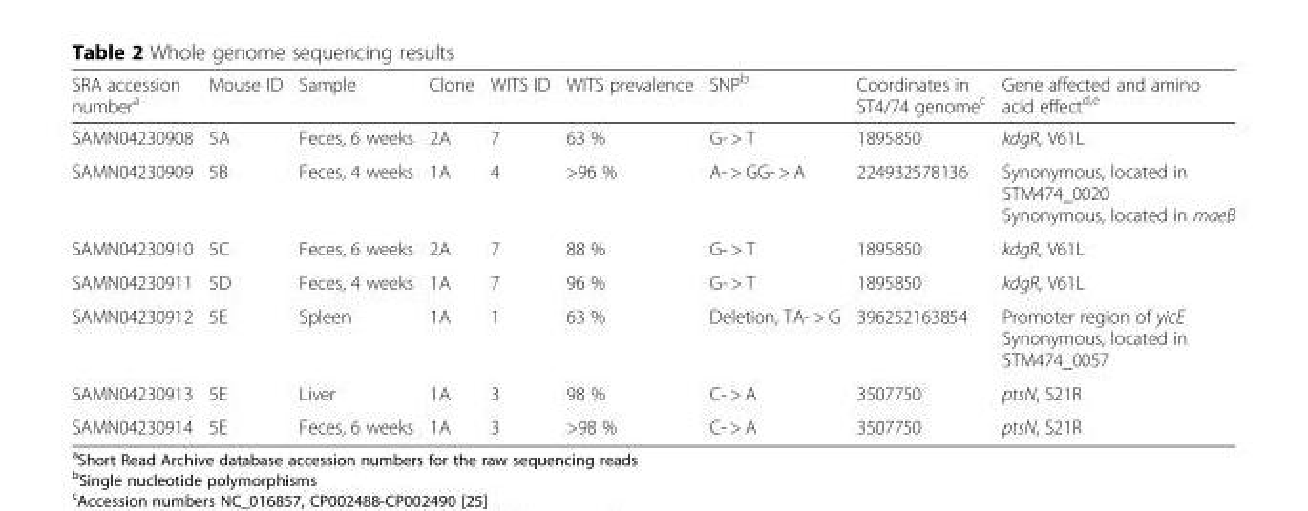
<table><thead><tr><td>SRA accession number<sup>a</sup></td><td>Mouse ID</td><td>Sample</td><td>Clone</td><td>WITS ID</td><td>WITS prevalence</td><td>SNP<sup>b</sup></td><td>Coordinates in ST4/74 genome<sup>c</sup></td><td>Gene affected and amino acid effect<sup>d,e</sup></td></tr></thead><tbody><tr><td>SAMN04230908</td><td>5A</td><td>Feces, 6 weeks</td><td>2A</td><td>7</td><td>63 %</td><td>G- &gt; T</td><td>1895850</td><td>kdgR, V61L</td></tr><tr><td>SAMN04230909</td><td>5B</td><td>Feces, 4 weeks</td><td>1A</td><td>4</td><td>&gt;96 %</td><td>A- &gt; GG- &gt; A</td><td>224932578136</td><td>Synonymous, located in STM474_0020 Synonymous, located in maeB</td></tr><tr><td>SAMN04230910</td><td>5C</td><td>Feces, 6 weeks</td><td>2A</td><td>7</td><td>88 %</td><td>G- &gt; T</td><td>1895850</td><td>kdgR, V61L</td></tr><tr><td>SAMN04230911</td><td>5D</td><td>Feces, 4 weeks</td><td>1A</td><td>7</td><td>96 %</td><td>G- &gt; T</td><td>1895850</td><td>kdgR, V61L</td></tr><tr><td>SAMN04230912</td><td>5E</td><td>Spleen</td><td>1A</td><td>1</td><td>63 %</td><td>Deletion, TA- &gt; G</td><td>396252163854</td><td>Promoter region of yicE Synonymous, located in STM474_0057</td></tr><tr><td>SAMN04230913</td><td>5E</td><td>Liver</td><td>1A</td><td>3</td><td>98 %</td><td>C- &gt; A</td><td>3507750</td><td>ptsN, S21R</td></tr><tr><td>SAMN04230914</td><td>5E</td><td>Feces, 6 weeks</td><td>1A</td><td>3</td><td>&gt;98 %</td><td>C- &gt; A</td><td>3507750</td><td>ptsN, S21R</td></tr></tbody></table>